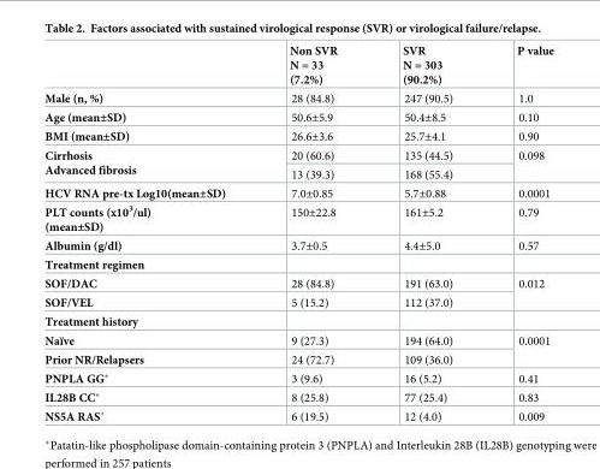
<table><thead><tr><td></td><td>Non SVR N = 33 (7.2%)</td><td>SVR N = 303 (90.2%)</td><td>P value</td></tr></thead><tbody><tr><td>Male (n, %)</td><td>28 (84.8)</td><td>247 (90.5)</td><td>1.0</td></tr><tr><td>Age (mean±SD)</td><td>50.6±5.9</td><td>50.4±8.5</td><td>0.10</td></tr><tr><td>BMI (mean±SD)</td><td>26.6±3.6</td><td>25.7±4.1</td><td>0.90</td></tr><tr><td rowspan="2">Cirrhosis Advanced fibrosis</td><td>20 (60.6)</td><td>135 (44.5)</td><td rowspan="2">0.098</td></tr><tr><td>13 (39.3)</td><td>168 (55.4)</td></tr><tr><td>HCV RNA pre-tx Log10(mean±SD)</td><td>7.0±0.85</td><td>5.7±0.88</td><td>0.0001</td></tr><tr><td>PLT counts (x10<sup>3</sup>/ul) (mean±SD)</td><td>150±22.8</td><td>161±5.2</td><td>0.79</td></tr><tr><td>Albumin (g/dl)</td><td>3.7±0.5</td><td>4.4±5.0</td><td>0.57</td></tr><tr><td colspan="4">Treatment regimen</td></tr><tr><td>SOF/DAC</td><td>28 (84.8)</td><td>191 (63.0)</td><td rowspan="2">0.012</td></tr><tr><td>SOF/VEL</td><td>5 (15.2)</td><td>112 (37.0)</td></tr><tr><td colspan="4">Treatment history</td></tr><tr><td>Naïve</td><td>9 (27.3)</td><td>194 (64.0)</td><td rowspan="2">0.0001</td></tr><tr><td>Prior NR/Relapsers</td><td>24 (72.7)</td><td>109 (36.0)</td></tr><tr><td>PNPLA GG*</td><td>3 (9.6)</td><td>16 (5.2)</td><td>0.41</td></tr><tr><td>IL28B CC*</td><td>8 (25.8)</td><td>77 (25.4)</td><td>0.83</td></tr><tr><td>NS5A RAS˚</td><td>6 (19.5)</td><td>12 (4.0)</td><td>0.009</td></tr></tbody></table>